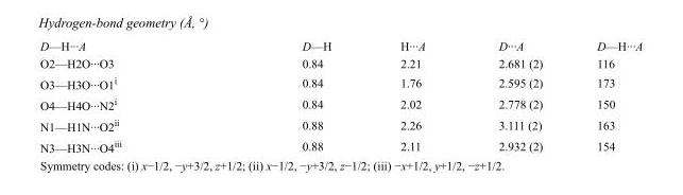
<table><tbody><tr><td>D—H···A</td><td>D—H</td><td>H···A</td><td>D···A</td><td>D—H···A</td></tr><tr><td>O2—H2O···O3</td><td>0.84</td><td>2.21</td><td>2.681 (2)</td><td>116</td></tr><tr><td>O3—H3O···O1<sup>i</sup></td><td>0.84</td><td>1.76</td><td>2.595 (2)</td><td>173</td></tr><tr><td>O4—H4O···N2<sup>i</sup></td><td>0.84</td><td>2.02</td><td>2.778 (2)</td><td>150</td></tr><tr><td>N1—H1N···O2<sup>ii</sup></td><td>0.88</td><td>2.26</td><td>3.111 (2)</td><td>163</td></tr><tr><td>N3—H3N···O4<sup>iii</sup></td><td>0.88</td><td>2.11</td><td>2.932 (2)</td><td>154</td></tr></tbody></table>